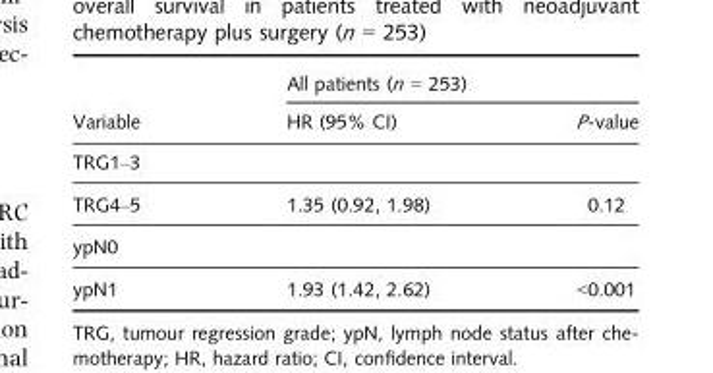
<table><thead><tr><td rowspan="2">Variable</td><td colspan="2">All patients (n = 253)</td></tr><tr><td>HR (95% CI)</td><td>P-value</td></tr></thead><tbody><tr><td colspan="3">TRG1–3</td></tr><tr><td>TRG4–5</td><td>1.35 (0.92, 1.98)</td><td>0.12</td></tr><tr><td colspan="3">ypN0</td></tr><tr><td>ypN1</td><td>1.93 (1.42, 2.62)</td><td>&lt;0.001</td></tr></tbody></table>